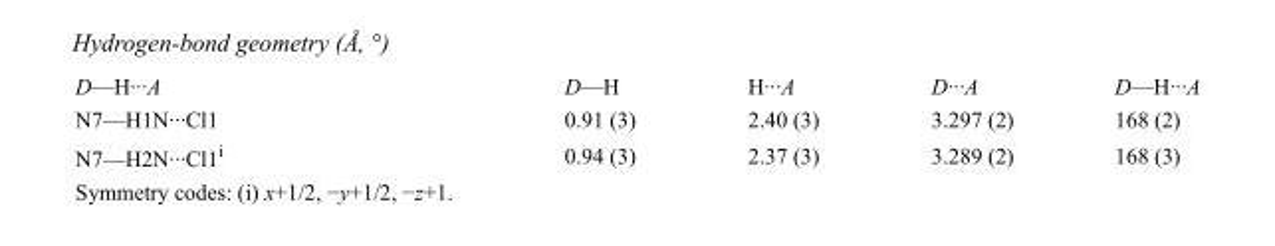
<table><tbody><tr><td>D—H···A</td><td>D—H</td><td>H···A</td><td>D···A</td><td>D—H···A</td></tr><tr><td>N7—H1N···Cl1</td><td>0.91 (3)</td><td>2.40 (3)</td><td>3.297 (2)</td><td>168 (2)</td></tr><tr><td>N7—H2N···Cl1<sup>i</sup></td><td>0.94 (3)</td><td>2.37 (3)</td><td>3.289 (2)</td><td>168 (3)</td></tr></tbody></table>